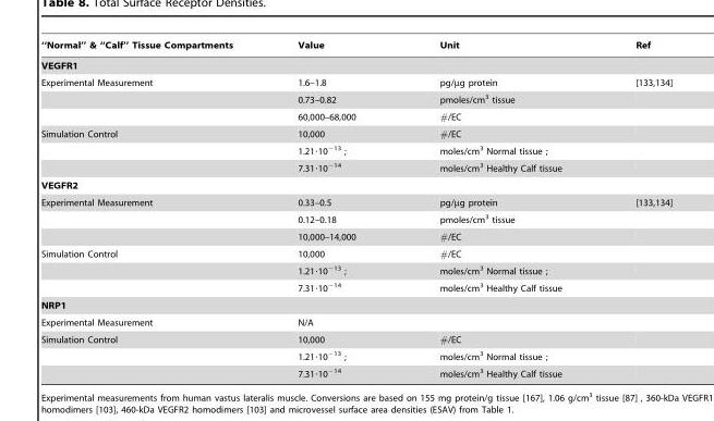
<table><thead><tr><td>‘‘Normal’’ &amp; ‘‘Calf’’ Tissue Compartments</td><td>Value</td><td>Unit</td><td>Ref</td></tr></thead><tbody><tr><td colspan="4">VEGFR1</td></tr><tr><td rowspan="3">Experimental Measurement</td><td>1.6–1.8</td><td>pg/µg protein</td><td>[133,134]</td></tr><tr><td>0.73–0.82</td><td>pmoles/cm<sup>3</sup> tissue</td><td></td></tr><tr><td>60,000–68,000</td><td>#/EC</td><td></td></tr><tr><td rowspan="3">Simulation Control</td><td>10,000</td><td>#/EC</td><td></td></tr><tr><td>1.21·10<sup>−13</sup> ;</td><td>moles/cm<sup>3</sup> Normal tissue ;</td><td></td></tr><tr><td>7.31·10<sup>−14</sup></td><td>moles/cm<sup>3</sup> Healthy Calf tissue</td><td></td></tr><tr><td colspan="4">VEGFR2</td></tr><tr><td rowspan="3">Experimental Measurement</td><td>0.33–0.5</td><td>pg/µg protein</td><td>[133,134]</td></tr><tr><td>0.12–0.18</td><td>pmoles/cm<sup>3</sup> tissue</td><td></td></tr><tr><td>10,000–14,000</td><td>#/EC</td><td></td></tr><tr><td rowspan="3">Simulation Control</td><td>10,000</td><td>#/EC</td><td></td></tr><tr><td>1.21·10<sup>−13</sup> ;</td><td>moles/cm<sup>3</sup> Normal tissue ;</td><td></td></tr><tr><td>7.31·10<sup>−14</sup></td><td>moles/cm<sup>3</sup> Healthy Calf tissue</td><td></td></tr><tr><td colspan="4">NRP1</td></tr><tr><td>Experimental Measurement</td><td>N/A</td><td></td><td></td></tr><tr><td rowspan="3">Simulation Control</td><td>10,000</td><td>#/EC</td><td></td></tr><tr><td>1.21·10<sup>−13</sup> ;</td><td>moles/cm<sup>3</sup> Normal tissue ;</td><td></td></tr><tr><td>7.31·10<sup>−14</sup></td><td>moles/cm<sup>3</sup> Healthy Calf tissue</td><td></td></tr></tbody></table>